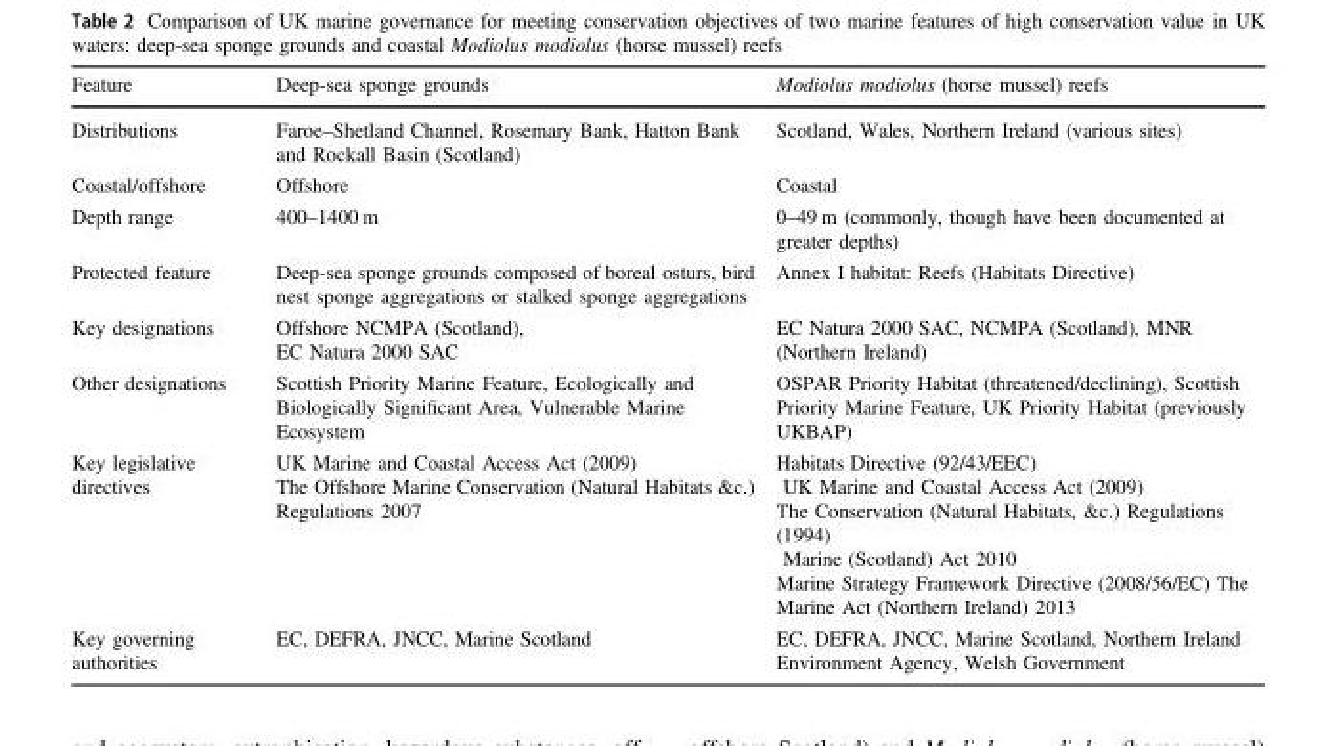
<table><thead><tr><td>Feature</td><td>Deep-sea sponge grounds</td><td>Modiolus modiolus (horse mussel) reefs</td></tr></thead><tbody><tr><td>Distributions</td><td>Faroe–Shetland Channel, Rosemary Bank, Hatton Bank and Rockall Basin (Scotland)</td><td>Scotland, Wales, Northern Ireland (various sites)</td></tr><tr><td>Coastal/offshore</td><td>Offshore</td><td>Coastal</td></tr><tr><td>Depth range</td><td>400–1400 m</td><td>0–49 m (commonly, though have been documented at greater depths)</td></tr><tr><td>Protected feature</td><td>Deep-sea sponge grounds composed of boreal osturs, bird nest sponge aggregations or stalked sponge aggregations</td><td>Annex I habitat: Reefs (Habitats Directive)</td></tr><tr><td>Key designations</td><td>Offshore NCMPA (Scotland), EC Natura 2000 SAC</td><td>EC Natura 2000 SAC, NCMPA (Scotland), MNR (Northern Ireland)</td></tr><tr><td>Other designations</td><td>Scottish Priority Marine Feature, Ecologically and Biologically Significant Area, Vulnerable Marine Ecosystem</td><td>OSPAR Priority Habitat (threatened/declining), Scottish Priority Marine Feature, UK Priority Habitat (previously UKBAP)</td></tr><tr><td>Key legislative directives</td><td>UK Marine and Coastal Access Act (2009) The Offshore Marine Conservation (Natural Habitats &amp;c.) Regulations 2007</td><td>Habitats Directive (92/43/EEC) UK Marine and Coastal Access Act (2009) The Conservation (Natural Habitats, &amp;c.) Regulations (1994) Marine (Scotland) Act 2010 Marine Strategy Framework Directive (2008/56/EC) The Marine Act (Northern Ireland) 2013</td></tr><tr><td>Key governing authorities</td><td>EC, DEFRA, JNCC, Marine Scotland</td><td>EC, DEFRA, JNCC, Marine Scotland, Northern Ireland Environment Agency, Welsh Government</td></tr></tbody></table>